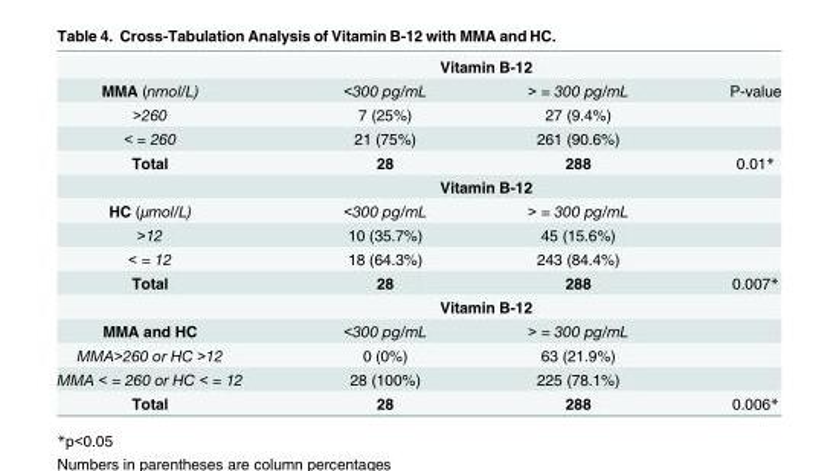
<table><thead><tr><td rowspan="2">MMA (nmol/L)</td><td colspan="2">Vitamin B-12</td><td rowspan="2">P-value</td></tr><tr><td>&lt;300 pg/mL</td><td>&gt; = 300 pg/mL</td></tr></thead><tbody><tr><td>&gt;260</td><td>7 (25%)</td><td>27 (9.4%)</td><td></td></tr><tr><td>&lt; = 260</td><td>21 (75%)</td><td>261 (90.6%)</td><td></td></tr><tr><td rowspan="2">Total</td><td>28</td><td>288</td><td>0.01*</td></tr><tr><td colspan="2">Vitamin B-12</td><td></td></tr><tr><td>HC (μmol/L)</td><td>&lt;300 pg/mL</td><td>&gt; = 300 pg/mL</td><td></td></tr><tr><td>&gt;12</td><td>10 (35.7%)</td><td>45 (15.6%)</td><td></td></tr><tr><td>&lt; = 12</td><td>18 (64.3%)</td><td>243 (84.4%)</td><td></td></tr><tr><td rowspan="2">Total</td><td>28</td><td>288</td><td>0.007*</td></tr><tr><td colspan="2">Vitamin B-12</td><td></td></tr><tr><td>MMA and HC</td><td>&lt;300 pg/mL</td><td>&gt; = 300 pg/mL</td><td></td></tr><tr><td>MMA&gt;260 or HC &gt;12</td><td>0 (0%)</td><td>63 (21.9%)</td><td></td></tr><tr><td>MMA &lt; = 260 or HC &lt; = 12</td><td>28 (100%)</td><td>225 (78.1%)</td><td></td></tr><tr><td>Total</td><td>28</td><td>288</td><td>0.006*</td></tr></tbody></table>